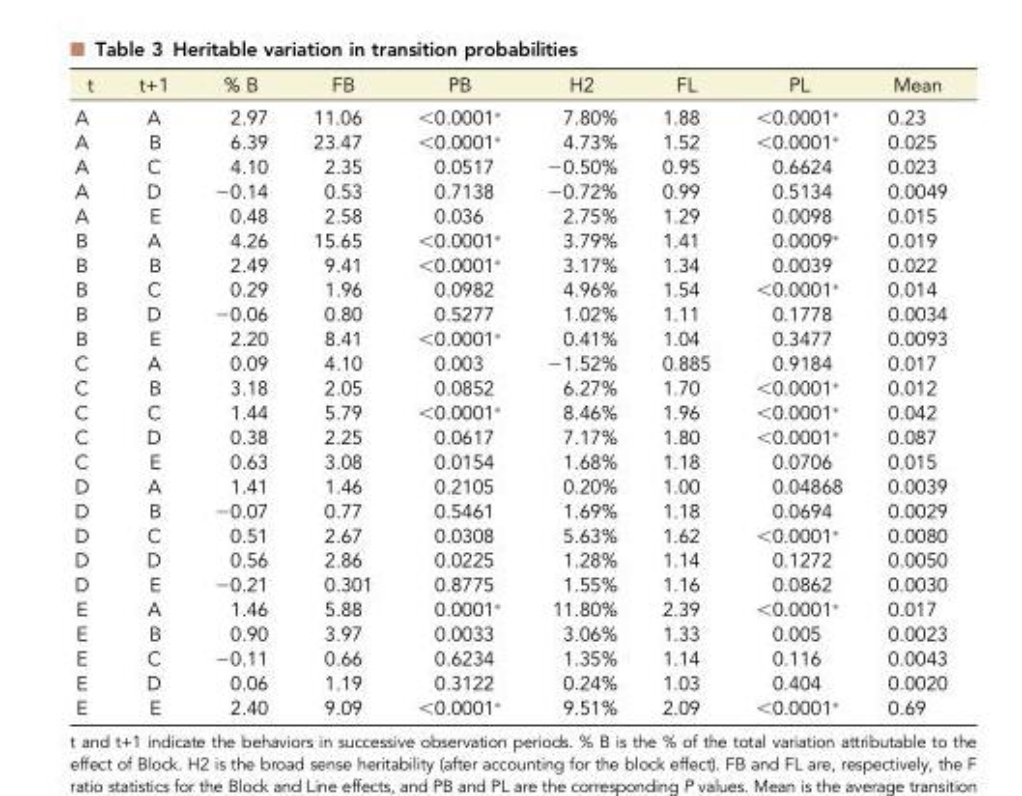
<table><thead><tr><td>t</td><td>t+1</td><td>% B</td><td>FB</td><td>PB</td><td>H2</td><td>FL</td><td>PL</td><td>Mean</td></tr></thead><tbody><tr><td>A</td><td>A</td><td>2.97</td><td>11.06</td><td>&lt;0.0001*</td><td>7.80%</td><td>1.88</td><td>&lt;0.0001*</td><td>0.23</td></tr><tr><td>A</td><td>B</td><td>6.39</td><td>23.47</td><td>&lt;0.0001*</td><td>4.73%</td><td>1.52</td><td>&lt;0.0001*</td><td>0.025</td></tr><tr><td>A</td><td>C</td><td>4.10</td><td>2.35</td><td>0.0517</td><td>−0.50%</td><td>0.95</td><td>0.6624</td><td>0.023</td></tr><tr><td>A</td><td>D</td><td>−0.14</td><td>0.53</td><td>0.7138</td><td>−0.72%</td><td>0.99</td><td>0.5134</td><td>0.0049</td></tr><tr><td>A</td><td>E</td><td>0.48</td><td>2.58</td><td>0.036</td><td>2.75%</td><td>1.29</td><td>0.0098</td><td>0.015</td></tr><tr><td>B</td><td>A</td><td>4.26</td><td>15.65</td><td>&lt;0.0001*</td><td>3.79%</td><td>1.41</td><td>0.0009*</td><td>0.019</td></tr><tr><td>B</td><td>B</td><td>2.49</td><td>9.41</td><td>&lt;0.0001*</td><td>3.17%</td><td>1.34</td><td>0.0039</td><td>0.022</td></tr><tr><td>B</td><td>C</td><td>0.29</td><td>1.96</td><td>0.0982</td><td>4.96%</td><td>1.54</td><td>&lt;0.0001*</td><td>0.014</td></tr><tr><td>B</td><td>D</td><td>−0.06</td><td>0.80</td><td>0.5277</td><td>1.02%</td><td>1.11</td><td>0.1778</td><td>0.0034</td></tr><tr><td>B</td><td>E</td><td>2.20</td><td>8.41</td><td>&lt;0.0001*</td><td>0.41%</td><td>1.04</td><td>0.3477</td><td>0.0093</td></tr><tr><td>C</td><td>A</td><td>0.09</td><td>4.10</td><td>0.003</td><td>−1.52%</td><td>0.885</td><td>0.9184</td><td>0.017</td></tr><tr><td>C</td><td>B</td><td>3.18</td><td>2.05</td><td>0.0852</td><td>6.27%</td><td>1.70</td><td>&lt;0.0001*</td><td>0.012</td></tr><tr><td>C</td><td>C</td><td>1.44</td><td>5.79</td><td>&lt;0.0001*</td><td>8.46%</td><td>1.96</td><td>&lt;0.0001*</td><td>0.042</td></tr><tr><td>C</td><td>D</td><td>0.38</td><td>2.25</td><td>0.0617</td><td>7.17%</td><td>1.80</td><td>&lt;0.0001*</td><td>0.087</td></tr><tr><td>C</td><td>E</td><td>0.63</td><td>3.08</td><td>0.0154</td><td>1.68%</td><td>1.18</td><td>0.0706</td><td>0.015</td></tr><tr><td>D</td><td>A</td><td>1.41</td><td>1.46</td><td>0.2105</td><td>0.20%</td><td>1.00</td><td>0.04868</td><td>0.0039</td></tr><tr><td>D</td><td>B</td><td>−0.07</td><td>0.77</td><td>0.5461</td><td>1.69%</td><td>1.18</td><td>0.0694</td><td>0.0029</td></tr><tr><td>D</td><td>C</td><td>0.51</td><td>2.67</td><td>0.0308</td><td>5.63%</td><td>1.62</td><td>&lt;0.0001*</td><td>0.0080</td></tr><tr><td>D</td><td>D</td><td>0.56</td><td>2.86</td><td>0.0225</td><td>1.28%</td><td>1.14</td><td>0.1272</td><td>0.0050</td></tr><tr><td>D</td><td>E</td><td>−0.21</td><td>0.301</td><td>0.8775</td><td>1.55%</td><td>1.16</td><td>0.0862</td><td>0.0030</td></tr><tr><td>E</td><td>A</td><td>1.46</td><td>5.88</td><td>0.0001*</td><td>11.80%</td><td>2.39</td><td>&lt;0.0001*</td><td>0.017</td></tr><tr><td>E</td><td>B</td><td>0.90</td><td>3.97</td><td>0.0033</td><td>3.06%</td><td>1.33</td><td>0.005</td><td>0.0023</td></tr><tr><td>E</td><td>C</td><td>−0.11</td><td>0.66</td><td>0.6234</td><td>1.35%</td><td>1.14</td><td>0.116</td><td>0.0043</td></tr><tr><td>E</td><td>D</td><td>0.06</td><td>1.19</td><td>0.3122</td><td>0.24%</td><td>1.03</td><td>0.404</td><td>0.0020</td></tr><tr><td>E</td><td>E</td><td>2.40</td><td>9.09</td><td>&lt;0.0001*</td><td>9.51%</td><td>2.09</td><td>&lt;0.0001*</td><td>0.69</td></tr></tbody></table>